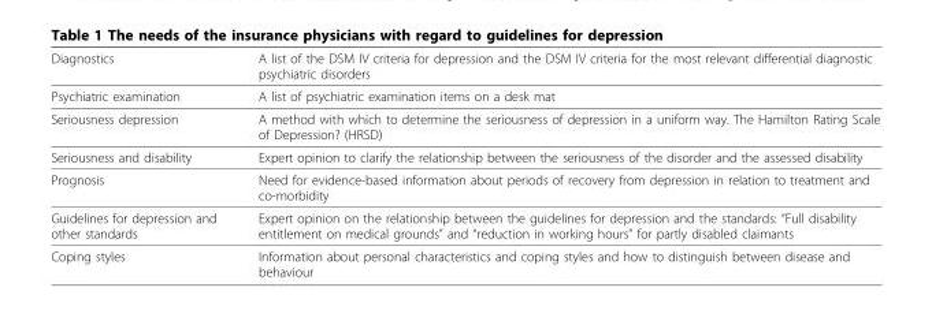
<table><thead><tr><td>Diagnostics</td><td>A list of the DSM IV criteria for depression and the DSM IV criteria for the most relevant differential diagnostic psychiatric disorders</td></tr></thead><tbody><tr><td>Psychiatric examination</td><td>A list of psychiatric examination items on a desk mat</td></tr><tr><td>Seriousness depression</td><td>A method with which to determine the seriousness of depression in a uniform way. The Hamilton Rating Scale of Depression? (HRSD)</td></tr><tr><td>Seriousness and disability</td><td>Expert opinion to clarify the relationship between the seriousness of the disorder and the assessed disability</td></tr><tr><td>Prognosis</td><td>Need for evidence-based information about periods of recovery from depression in relation to treatment and co-morbidity</td></tr><tr><td>Guidelines for depression and other standards</td><td>Expert opinion on the relationship between the guidelines for depression and the standards: “Full disability entitlement on medical grounds” and “reduction in working hours” for partly disabled claimants</td></tr><tr><td>Coping styles</td><td>Information about personal characteristics and coping styles and how to distinguish between disease and behaviour</td></tr></tbody></table>